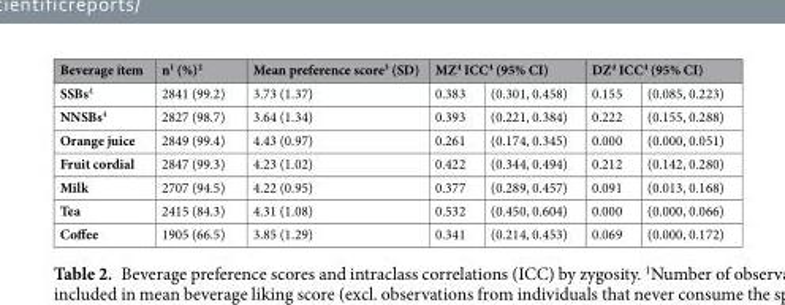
<table><thead><tr><td rowspan="2">Beverage item SSBs<sup>4</sup></td><td rowspan="2">n<sup>1</sup> (%)<sup>2</sup> 2841 (99.2)</td><td rowspan="2">Mean preference score<sup>3</sup> (SD) 3.73 (1.37)</td><td colspan="2">MZ<sup>4</sup> ICC<sup>4</sup> (95% CI)</td><td colspan="2">DZ<sup>4</sup> ICC<sup>4</sup> (95% CI)</td></tr><tr><td>0.383</td><td>(0.301, 0.458)</td><td>0.155</td><td>(0.085, 0.223)</td></tr></thead><tbody><tr><td>NNSBs<sup>4</sup></td><td>2827 (98.7)</td><td>3.64 (1.34)</td><td>0.393</td><td>(0.221, 0.384)</td><td>0.222</td><td>(0.155, 0.288)</td></tr><tr><td>Orange juice</td><td>2849 (99.4)</td><td>4.43 (0.97)</td><td>0.261</td><td>(0.174, 0.345)</td><td>0.000</td><td>(0.000, 0.051)</td></tr><tr><td>Fruit cordial</td><td>2847 (99.3)</td><td>4.23 (1.02)</td><td>0.422</td><td>(0.344, 0.494)</td><td>0.212</td><td>(0.142, 0.280)</td></tr><tr><td>Milk</td><td>2707 (94.5)</td><td>4.22 (0.95)</td><td>0.377</td><td>(0.289, 0.457)</td><td>0.091</td><td>(0.013, 0.168)</td></tr><tr><td>Tea</td><td>2415 (84.3)</td><td>4.31 (1.08)</td><td>0.532</td><td>(0.450, 0.604)</td><td>0.000</td><td>(0.000, 0.066)</td></tr><tr><td>Coffee</td><td>1905 (66.5)</td><td>3.85 (1.29)</td><td>0.341</td><td>(0.214, 0.453)</td><td>0.069</td><td>(0.000, 0.172)</td></tr></tbody></table>